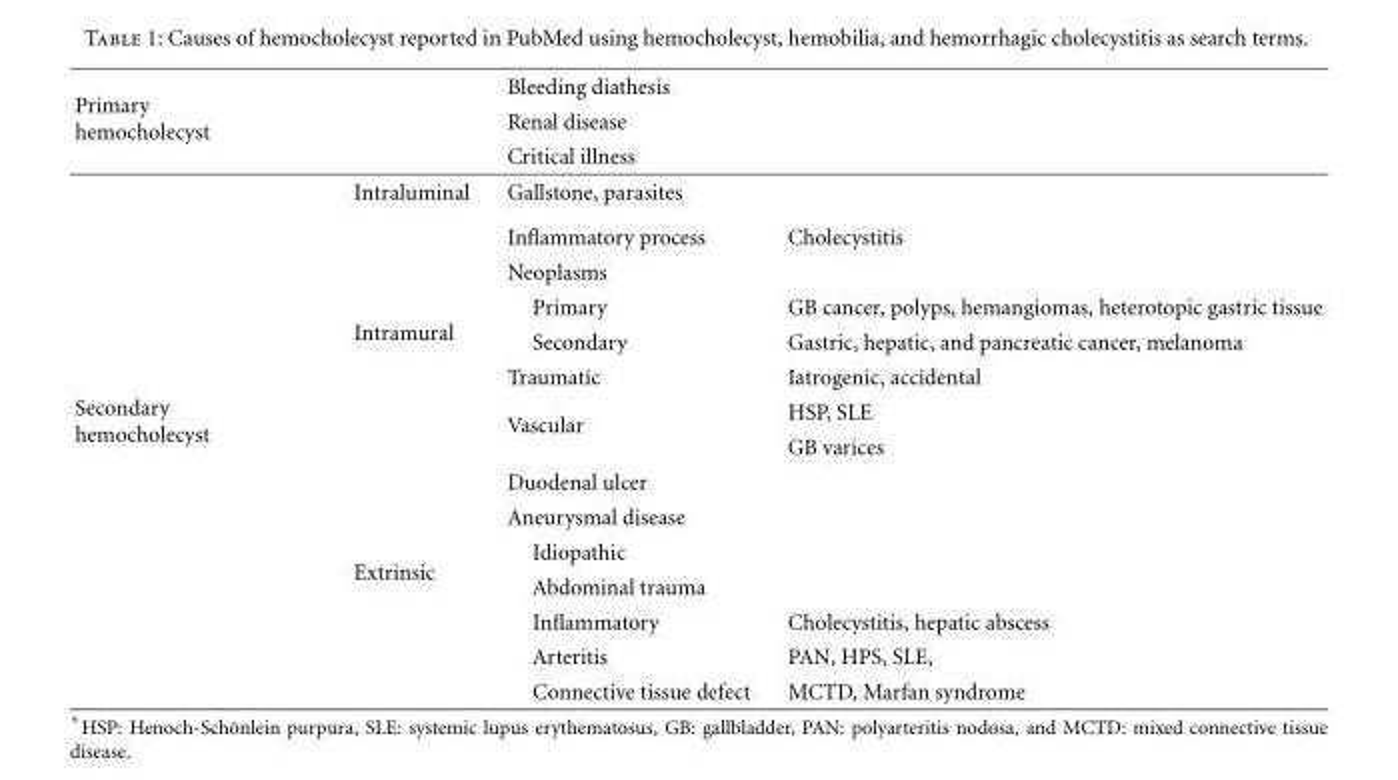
<table><thead><tr><td rowspan="3">Primary hemocholecyst</td><td rowspan="3"></td><td rowspan="3">Bleeding diathesis Renal disease Critical illness</td><td rowspan="3"></td></tr><tr></tr><tr></tr></thead><tbody><tr><td rowspan="15">Secondary hemocholecyst</td><td>Intraluminal</td><td>Gallstone, parasites</td><td></td></tr><tr><td rowspan="7">Intramural</td><td>Inflammatory process</td><td>Cholecystitis</td></tr><tr><td>Neoplasms</td><td></td></tr><tr><td>Primary</td><td>GB cancer, polyps, hemangiomas, heterotopic gastric tissue</td></tr><tr><td>Secondary</td><td>Gastric, hepatic, and pancreatic cancer, melanoma</td></tr><tr><td>Traumatic</td><td>Iatrogenic, accidental</td></tr><tr><td rowspan="2">Vascular</td><td>HSP, SLE</td></tr><tr><td>GB varices</td></tr><tr><td rowspan="7">Extrinsic</td><td>Duodenal ulcer</td><td rowspan="4"></td></tr><tr><td>Aneurysmal disease</td></tr><tr><td>Idiopathic</td></tr><tr><td>Abdominal trauma</td></tr><tr><td>Inflammatory</td><td>Cholecystitis, hepatic abscess</td></tr><tr><td>Arteritis</td><td>PAN, HPS, SLE,</td></tr><tr><td>Connective tissue defect</td><td>MCTD, Marfan syndrome</td></tr></tbody></table>